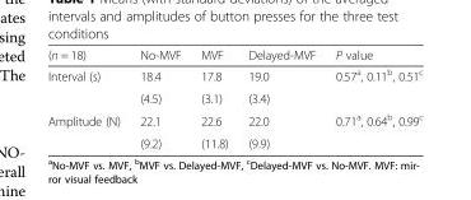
<table><thead><tr><td>(n = 18)</td><td>No-MVF</td><td>MVF</td><td>Delayed-MVF</td><td>P value</td></tr></thead><tbody><tr><td rowspan="2">Interval (s)</td><td>18.4</td><td>17.8</td><td>19.0</td><td rowspan="2">0.57<sup>a</sup>, 0.11<sup>b</sup>, 0.51<sup>c</sup></td></tr><tr><td>(4.5)</td><td>(3.1)</td><td>(3.4)</td></tr><tr><td rowspan="2">Amplitude (N)</td><td>22.1</td><td>22.6</td><td>22.0</td><td rowspan="2">0.71<sup>a</sup>, 0.64<sup>b</sup>, 0.99<sup>c</sup></td></tr><tr><td>(9.2)</td><td>(11.8)</td><td>(9.9)</td></tr></tbody></table>